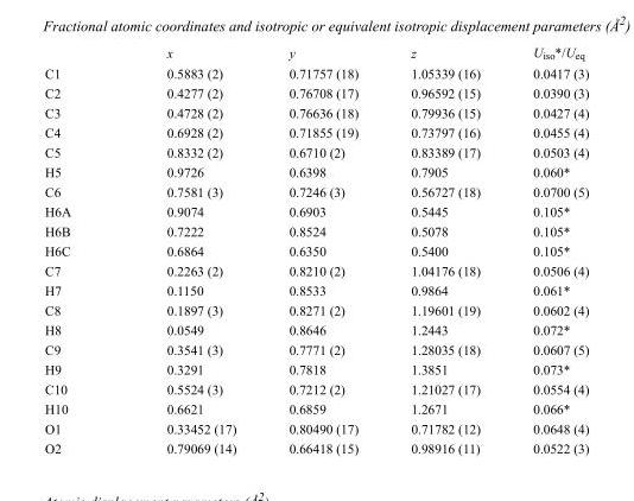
<table><thead><tr><td></td><td>x</td><td>y</td><td>z</td><td>U<sub>iso</sub>*/U<sub>eq</sub></td></tr></thead><tbody><tr><td>C1</td><td>0.5883 (2)</td><td>0.71757 (18)</td><td>1.05339 (16)</td><td>0.0417 (3)</td></tr><tr><td>C2</td><td>0.4277 (2)</td><td>0.76708 (17)</td><td>0.96592 (15)</td><td>0.0390 (3)</td></tr><tr><td>C3</td><td>0.4728 (2)</td><td>0.76636 (18)</td><td>0.79936 (15)</td><td>0.0427 (4)</td></tr><tr><td>C4</td><td>0.6928 (2)</td><td>0.71855 (19)</td><td>0.73797 (16)</td><td>0.0455 (4)</td></tr><tr><td>C5</td><td>0.8332 (2)</td><td>0.6710 (2)</td><td>0.83389 (17)</td><td>0.0503 (4)</td></tr><tr><td>H5</td><td>0.9726</td><td>0.6398</td><td>0.7905</td><td>0.060*</td></tr><tr><td>C6</td><td>0.7581 (3)</td><td>0.7246 (3)</td><td>0.56727 (18)</td><td>0.0700 (5)</td></tr><tr><td>H6A</td><td>0.9074</td><td>0.6903</td><td>0.5445</td><td>0.105*</td></tr><tr><td>H6B</td><td>0.7222</td><td>0.8524</td><td>0.5078</td><td>0.105*</td></tr><tr><td>H6C</td><td>0.6864</td><td>0.6350</td><td>0.5400</td><td>0.105*</td></tr><tr><td>C7</td><td>0.2263 (2)</td><td>0.8210 (2)</td><td>1.04176 (18)</td><td>0.0506 (4)</td></tr><tr><td>H7</td><td>0.1150</td><td>0.8533</td><td>0.9864</td><td>0.061*</td></tr><tr><td>C8</td><td>0.1897 (3)</td><td>0.8271 (2)</td><td>1.19601 (19)</td><td>0.0602 (4)</td></tr><tr><td>H8</td><td>0.0549</td><td>0.8646</td><td>1.2443</td><td>0.072*</td></tr><tr><td>C9</td><td>0.3541 (3)</td><td>0.7771 (2)</td><td>1.28035 (18)</td><td>0.0607 (5)</td></tr><tr><td>H9</td><td>0.3291</td><td>0.7818</td><td>1.3851</td><td>0.073*</td></tr><tr><td>C10</td><td>0.5524 (3)</td><td>0.7212 (2)</td><td>1.21027 (17)</td><td>0.0554 (4)</td></tr><tr><td>H10</td><td>0.6621</td><td>0.6859</td><td>1.2671</td><td>0.066*</td></tr><tr><td>O1</td><td>0.33452 (17)</td><td>0.80490 (17)</td><td>0.71782 (12)</td><td>0.0648 (4)</td></tr><tr><td>O2</td><td>0.79069 (14)</td><td>0.66418 (15)</td><td>0.98916 (11)</td><td>0.0522 (3)</td></tr></tbody></table>